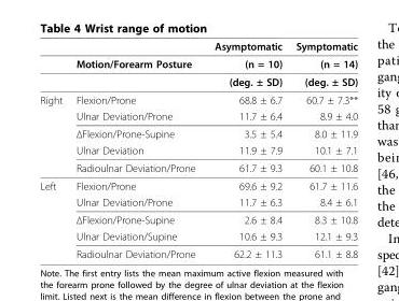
<table><thead><tr><td></td><td></td><td>Asymptomatic</td><td>Symptomatic</td></tr></thead><tbody><tr><td></td><td>Motion/Forearm Posture</td><td>(n = 10)</td><td>(n = 14)</td></tr><tr><td></td><td></td><td>(deg. ± SD)</td><td>(deg. ± SD)</td></tr><tr><td rowspan="5">Right</td><td>Flexion/Prone</td><td>68.8 ± 6.7</td><td>60.7 ± 7.3**</td></tr><tr><td>Ulnar Deviation/Prone</td><td>11.7 ± 6.4</td><td>8.9 ± 4.0</td></tr><tr><td>ΔFlexion/Prone-Supine</td><td>3.5 ± 5.4</td><td>8.0 ± 11.9</td></tr><tr><td>Ulnar Deviation</td><td>11.9 ± 7.9</td><td>10.1 ± 7.1</td></tr><tr><td>Radioulnar Deviation/Prone</td><td>61.7 ± 9.3</td><td>60.1 ± 10.8</td></tr><tr><td rowspan="5">Left</td><td>Flexion/Prone</td><td>69.6 ± 9.2</td><td>61.7 ± 11.6</td></tr><tr><td>Ulnar Deviation/Prone</td><td>11.7 ± 6.3</td><td>8.4 ± 6.1</td></tr><tr><td>ΔFlexion/Prone-Supine</td><td>2.6 ± 8.4</td><td>8.3 ± 10.8</td></tr><tr><td>Ulnar Deviation/Supine</td><td>10.6 ± 9.3</td><td>12.1 ± 9.3</td></tr><tr><td>Radioulnar Deviation/Prone</td><td>62.2 ± 11.3</td><td>61.1 ± 8.8</td></tr></tbody></table>